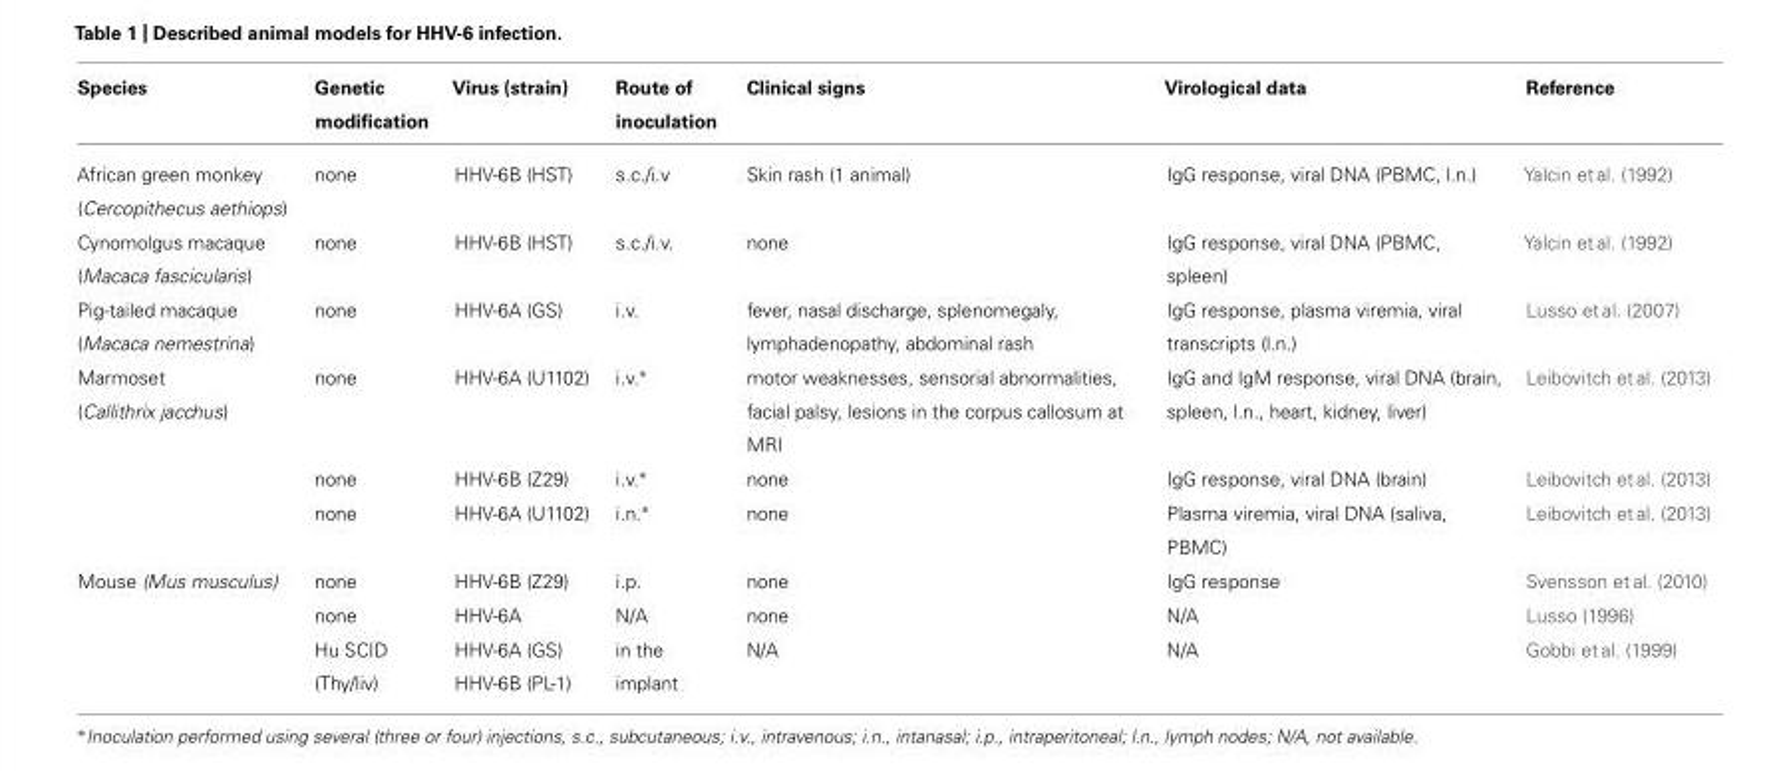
<table><thead><tr><td>Species</td><td>Genetic modification</td><td>Virus (strain)</td><td>Route of inoculation</td><td>Clinical signs</td><td>Virological data</td><td>Reference</td></tr></thead><tbody><tr><td>African green monkey (Cercopithecus aethiops)</td><td>none</td><td>HHV-6B (HST)</td><td>s.c./i.v</td><td>Skin rash (1 animal)</td><td>IgG response, viral DNA (PBMC, l.n.)</td><td>Yalcin et al. (1992)</td></tr><tr><td>Cynomolgus macaque (Macaca fascicularis)</td><td>none</td><td>HHV-6B (HST)</td><td>s.c./i.v.</td><td>none</td><td>IgG response, viral DNA (PBMC, spleen)</td><td>Yalcin et al. (1992)</td></tr><tr><td>Pig-tailed macaque (Macaca nemestrina)</td><td>none</td><td>HHV-6A (GS)</td><td>i.v.</td><td>fever, nasal discharge, splenomegaly, lymphadenopathy, abdominal rash</td><td>IgG response, plasma viremia, viral transcripts (l.n.)</td><td>Lusso et al. (2007)</td></tr><tr><td rowspan="3">Marmoset (Callithrix jacchus)</td><td>none</td><td>HHV-6A (U1102)</td><td>i.v.∗</td><td>motor weaknesses, sensorial abnormalities, facial palsy, lesions in the corpus callosum at MRI</td><td>IgG and IgM response, viral DNA (brain, spleen, l.n., heart, kidney, liver)</td><td>Leibovitch et al. (2013)</td></tr><tr><td>none</td><td>HHV-6B (Z29)</td><td>i.v.∗</td><td>none</td><td>IgG response, viral DNA (brain)</td><td>Leibovitch et al. (2013)</td></tr><tr><td>none</td><td>HHV-6A (U1102)</td><td>i.n.∗</td><td>none</td><td>Plasma viremia, viral DNA (saliva, PBMC)</td><td>Leibovitch et al. (2013)</td></tr><tr><td rowspan="3">Mouse (Mus musculus)</td><td>none</td><td>HHV-6B (Z29)</td><td>i.p.</td><td>none</td><td>IgG response</td><td>Svensson et al. (2010)</td></tr><tr><td>none</td><td>HHV-6A</td><td>N/A</td><td>none</td><td>N/A</td><td>Lusso (1996)</td></tr><tr><td>Hu SCID (Thy/liv)</td><td>HHV-6A (GS) HHV-6B (PL-1)</td><td>in the implant</td><td>N/A</td><td>N/A</td><td>Gobbi et al. (1999)</td></tr></tbody></table>